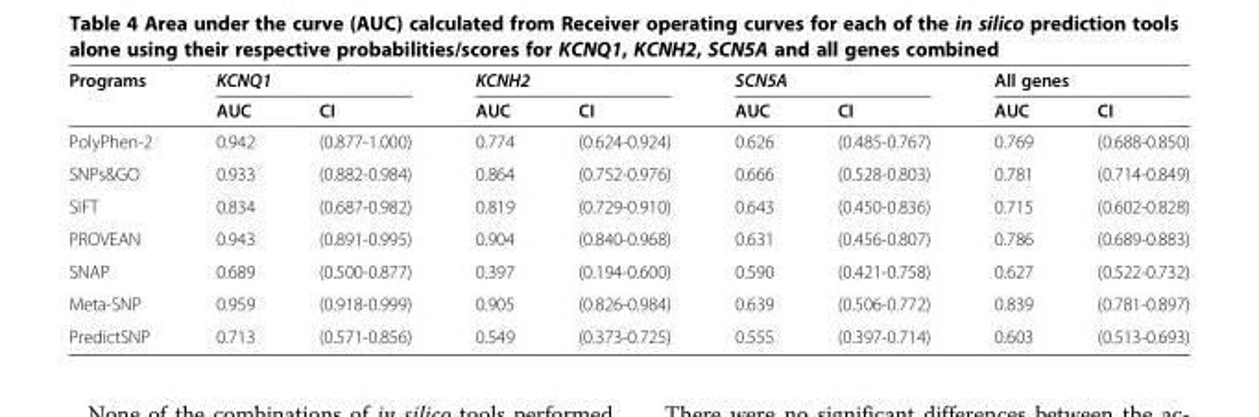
<table><thead><tr><td rowspan="2">Programs</td><td colspan="2">KCNQ1</td><td colspan="2">KCNH2</td><td colspan="2">SCN5A</td><td colspan="2">All genes</td></tr><tr><td>AUC</td><td>CI</td><td>AUC</td><td>CI</td><td>AUC</td><td>CI</td><td>AUC</td><td>CI</td></tr></thead><tbody><tr><td>PolyPhen-2</td><td>0.942</td><td>(0.877-1.000)</td><td>0.774</td><td>(0.624-0.924)</td><td>0.626</td><td>(0.485-0.767)</td><td>0.769</td><td>(0.688-0.850)</td></tr><tr><td>SNPs&amp;GO</td><td>0.933</td><td>(0.882-0.984)</td><td>0.864</td><td>(0.752-0.976)</td><td>0.666</td><td>(0.528-0.803)</td><td>0.781</td><td>(0.714-0.849)</td></tr><tr><td>SIFT</td><td>0.834</td><td>(0.687-0.982)</td><td>0.819</td><td>(0.729-0.910)</td><td>0.643</td><td>(0.450-0.836)</td><td>0.715</td><td>(0.602-0.828)</td></tr><tr><td>PROVEAN</td><td>0.943</td><td>(0.891-0.995)</td><td>0.904</td><td>(0.840-0.968)</td><td>0.631</td><td>(0.456-0.807)</td><td>0.786</td><td>(0.689-0.883)</td></tr><tr><td>SNAP</td><td>0.689</td><td>(0.500-0.877)</td><td>0.397</td><td>(0.194-0.600)</td><td>0.590</td><td>(0.421-0.758)</td><td>0.627</td><td>(0.522-0.732)</td></tr><tr><td>Meta-SNP</td><td>0.959</td><td>(0.918-0.999)</td><td>0.905</td><td>(0.826-0.984)</td><td>0.639</td><td>(0.506-0.772)</td><td>0.839</td><td>(0.781-0.897)</td></tr><tr><td>PredictSNP</td><td>0.713</td><td>(0.571-0.856)</td><td>0.549</td><td>(0.373-0.725)</td><td>0.555</td><td>(0.397-0.714)</td><td>0.603</td><td>(0.513-0.693)</td></tr></tbody></table>